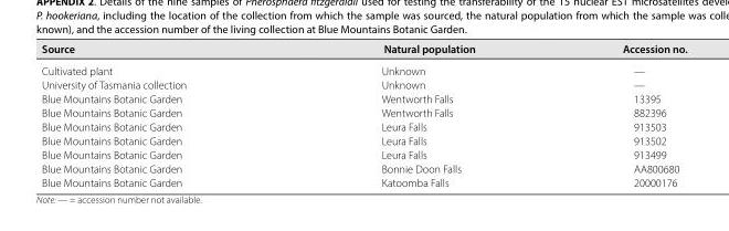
<table><thead><tr><td>Source</td><td>Natural population</td><td>Accession no.</td></tr></thead><tbody><tr><td>Cultivated plant</td><td>Unknown</td><td>—</td></tr><tr><td>University of Tasmania collection</td><td>Unknown</td><td>—</td></tr><tr><td>Blue Mountains Botanic Garden</td><td>Wentworth Falls</td><td>13395</td></tr><tr><td>Blue Mountains Botanic Garden</td><td>Wentworth Falls</td><td>882396</td></tr><tr><td>Blue Mountains Botanic Garden</td><td>Leura Falls</td><td>913503</td></tr><tr><td>Blue Mountains Botanic Garden</td><td>Leura Falls</td><td>913502</td></tr><tr><td>Blue Mountains Botanic Garden</td><td>Leura Falls</td><td>913499</td></tr><tr><td>Blue Mountains Botanic Garden</td><td>Bonnie Doon Falls</td><td>AA800680</td></tr><tr><td>Blue Mountains Botanic Garden</td><td>Katoomba Falls</td><td>20000176</td></tr></tbody></table>